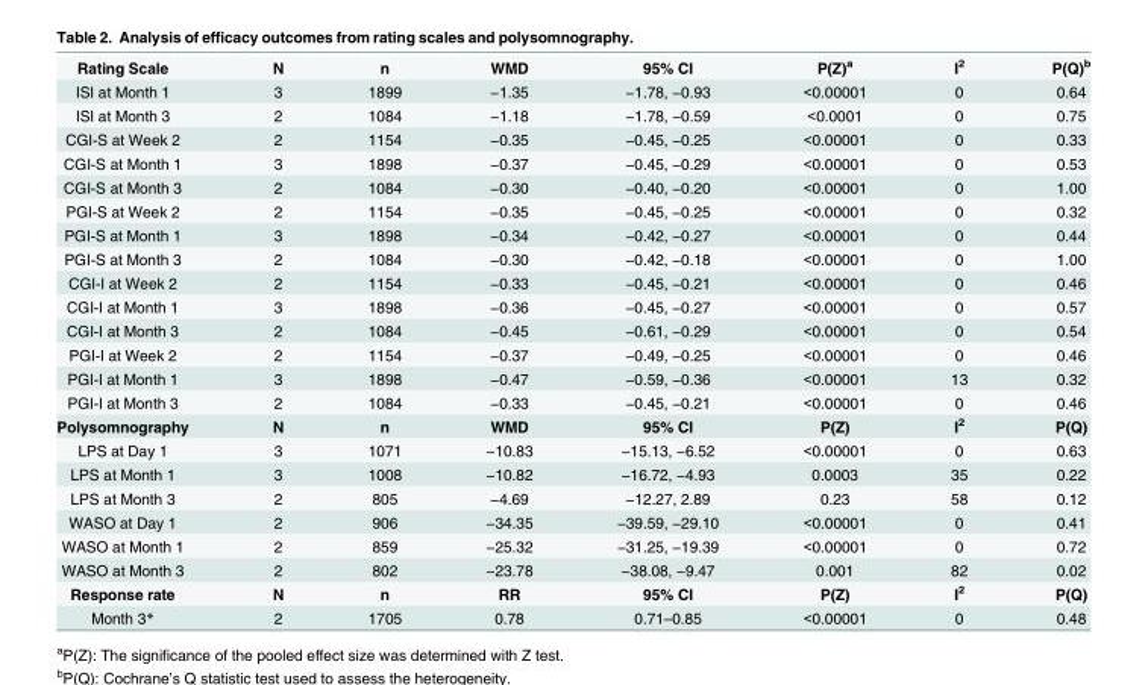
<table><tbody><tr><td>Rating Scale</td><td>N</td><td>n</td><td>WMD</td><td>95% CI</td><td>P(Z)<sup>a</sup></td><td>I<sup>2</sup></td><td>P(Q)<sup>b</sup></td></tr><tr><td>ISI at Month 1</td><td>3</td><td>1899</td><td>−1.35</td><td>−1.78, −0.93</td><td>&lt;0.00001</td><td>0</td><td>0.64</td></tr><tr><td>ISI at Month 3</td><td>2</td><td>1084</td><td>−1.18</td><td>−1.78, −0.59</td><td>&lt;0.0001</td><td>0</td><td>0.75</td></tr><tr><td>CGI-S at Week 2</td><td>2</td><td>1154</td><td>−0.35</td><td>−0.45, −0.25</td><td>&lt;0.00001</td><td>0</td><td>0.33</td></tr><tr><td>CGI-S at Month 1</td><td>3</td><td>1898</td><td>−0.37</td><td>−0.45, −0.29</td><td>&lt;0.00001</td><td>0</td><td>0.53</td></tr><tr><td>CGI-S at Month 3</td><td>2</td><td>1084</td><td>−0.30</td><td>−0.40, −0.20</td><td>&lt;0.00001</td><td>0</td><td>1.00</td></tr><tr><td>PGI-S at Week 2</td><td>2</td><td>1154</td><td>−0.35</td><td>−0.45, −0.25</td><td>&lt;0.00001</td><td>0</td><td>0.32</td></tr><tr><td>PGI-S at Month 1</td><td>3</td><td>1898</td><td>−0.34</td><td>−0.42, −0.27</td><td>&lt;0.00001</td><td>0</td><td>0.44</td></tr><tr><td>PGI-S at Month 3</td><td>2</td><td>1084</td><td>−0.30</td><td>−0.42, −0.18</td><td>&lt;0.00001</td><td>0</td><td>1.00</td></tr><tr><td>CGI-I at Week 2</td><td>2</td><td>1154</td><td>−0.33</td><td>−0.45, −0.21</td><td>&lt;0.00001</td><td>0</td><td>0.46</td></tr><tr><td>CGI-I at Month 1</td><td>3</td><td>1898</td><td>−0.36</td><td>−0.45, −0.27</td><td>&lt;0.00001</td><td>0</td><td>0.57</td></tr><tr><td>CGI-I at Month 3</td><td>2</td><td>1084</td><td>−0.45</td><td>−0.61, −0.29</td><td>&lt;0.00001</td><td>0</td><td>0.54</td></tr><tr><td>PGI-I at Week 2</td><td>2</td><td>1154</td><td>−0.37</td><td>−0.49, −0.25</td><td>&lt;0.00001</td><td>0</td><td>0.46</td></tr><tr><td>PGI-I at Month 1</td><td>3</td><td>1898</td><td>−0.47</td><td>−0.59, −0.36</td><td>&lt;0.00001</td><td>13</td><td>0.32</td></tr><tr><td>PGI-I at Month 3</td><td>2</td><td>1084</td><td>−0.33</td><td>−0.45, −0.21</td><td>&lt;0.00001</td><td>0</td><td>0.46</td></tr><tr><td>Polysomnography</td><td>N</td><td>n</td><td>WMD</td><td>95% CI</td><td>P(Z)</td><td>I<sup>2</sup></td><td>P(Q)</td></tr><tr><td>LPS at Day 1</td><td>3</td><td>1071</td><td>−10.83</td><td>−15.13, −6.52</td><td>&lt;0.00001</td><td>0</td><td>0.63</td></tr><tr><td>LPS at Month 1</td><td>3</td><td>1008</td><td>−10.82</td><td>−16.72, −4.93</td><td>0.0003</td><td>35</td><td>0.22</td></tr><tr><td>LPS at Month 3</td><td>2</td><td>805</td><td>−4.69</td><td>−12.27, 2.89</td><td>0.23</td><td>58</td><td>0.12</td></tr><tr><td>WASO at Day 1</td><td>2</td><td>906</td><td>−34.35</td><td>−39.59, −29.10</td><td>&lt;0.00001</td><td>0</td><td>0.41</td></tr><tr><td>WASO at Month 1</td><td>2</td><td>859</td><td>−25.32</td><td>−31.25, −19.39</td><td>&lt;0.00001</td><td>0</td><td>0.72</td></tr><tr><td>WASO at Month 3</td><td>2</td><td>802</td><td>−23.78</td><td>−38.08, −9.47</td><td>0.001</td><td>82</td><td>0.02</td></tr><tr><td>Response rate</td><td>N</td><td>n</td><td>RR</td><td>95% CI</td><td>P(Z)</td><td>I<sup>2</sup></td><td>P(Q)</td></tr><tr><td>Month 3*</td><td>2</td><td>1705</td><td>0.78</td><td>0.71–0.85</td><td>&lt;0.00001</td><td>0</td><td>0.48</td></tr></tbody></table>